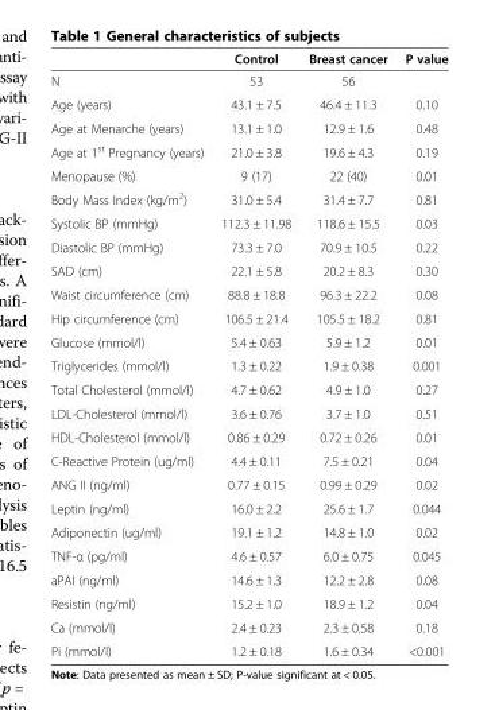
<table><thead><tr><td></td><td>Control</td><td>Breast cancer</td><td>P value</td></tr></thead><tbody><tr><td>N</td><td>53</td><td>56</td><td></td></tr><tr><td>Age (years)</td><td>43.1 ± 7.5</td><td>46.4 ± 11.3</td><td>0.10</td></tr><tr><td>Age at Menarche (years)</td><td>13.1 ± 1.0</td><td>12.9 ± 1.6</td><td>0.48</td></tr><tr><td>Age at 1<sup>st</sup> Pregnancy (years)</td><td>21.0 ± 3.8</td><td>19.6 ± 4.3</td><td>0.19</td></tr><tr><td>Menopause (%)</td><td>9 (17)</td><td>22 (40)</td><td>0.01</td></tr><tr><td>Body Mass Index (kg/m<sup>2</sup>)</td><td>31.0 ± 5.4</td><td>31.4 ± 7.7</td><td>0.81</td></tr><tr><td>Systolic BP (mmHg)</td><td>112.3 ± 11.98</td><td>118.6 ± 15.5</td><td>0.03</td></tr><tr><td>Diastolic BP (mmHg)</td><td>73.3 ± 7.0</td><td>70.9 ± 10.5</td><td>0.22</td></tr><tr><td>SAD (cm)</td><td>22.1 ± 5.8</td><td>20.2 ± 8.3</td><td>0.30</td></tr><tr><td>Waist circumference (cm)</td><td>88.8 ± 18.8</td><td>96.3 ± 22.2</td><td>0.08</td></tr><tr><td>Hip circumference (cm)</td><td>106.5 ± 21.4</td><td>105.5 ± 18.2</td><td>0.81</td></tr><tr><td>Glucose (mmol/l)</td><td>5.4 ± 0.63</td><td>5.9 ± 1.2</td><td>0.01</td></tr><tr><td>Triglycerides (mmol/l)</td><td>1.3 ± 0.22</td><td>1.9 ± 0.38</td><td>0.001</td></tr><tr><td>Total Cholesterol (mmol/l)</td><td>4.7 ± 0.62</td><td>4.9 ± 1.0</td><td>0.27</td></tr><tr><td>LDL-Cholesterol (mmol/l)</td><td>3.6 ± 0.76</td><td>3.7 ± 1.0</td><td>0.51</td></tr><tr><td>HDL-Cholesterol (mmol/l)</td><td>0.86 ± 0.29</td><td>0.72 ± 0.26</td><td>0.01</td></tr><tr><td>C-Reactive Protein (ug/ml)</td><td>4.4 ± 0.11</td><td>7.5 ± 0.21</td><td>0.04</td></tr><tr><td>ANG II (ng/ml)</td><td>0.77 ± 0.15</td><td>0.99 ± 0.29</td><td>0.02</td></tr><tr><td>Leptin (ng/ml)</td><td>16.0 ± 2.2</td><td>25.6 ± 1.7</td><td>0.044</td></tr><tr><td>Adiponectin (ug/ml)</td><td>19.1 ± 1.2</td><td>14.8 ± 1.0</td><td>0.02</td></tr><tr><td>TNF-α (pg/ml)</td><td>4.6 ± 0.57</td><td>6.0 ± 0.75</td><td>0.045</td></tr><tr><td>aPAI (ng/ml)</td><td>14.6 ± 1.3</td><td>12.2 ± 2.8</td><td>0.08</td></tr><tr><td>Resistin (ng/ml)</td><td>15.2 ± 1.0</td><td>18.9 ± 1.2</td><td>0.04</td></tr><tr><td>Ca (mmol/l)</td><td>2.4 ± 0.23</td><td>2.3 ± 0.58</td><td>0.18</td></tr><tr><td>Pi (mmol/l)</td><td>1.2 ± 0.18</td><td>1.6 ± 0.34</td><td>&lt;0.001</td></tr></tbody></table>